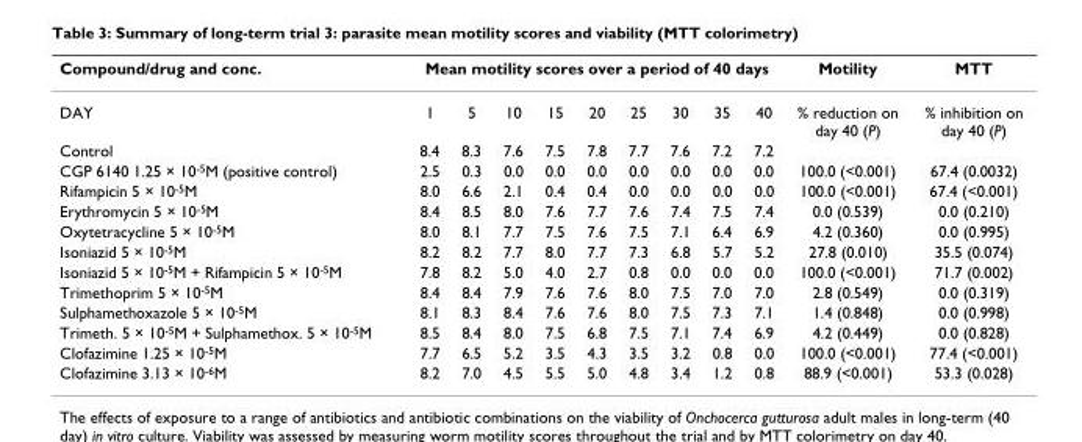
<table><thead><tr><td rowspan="2">Compound/drug and conc. DAY</td><td colspan="9">Mean motility scores over a period of 40 days</td><td rowspan="2">Motility % reduction on day 40 (P)</td><td rowspan="2">MTT % inhibition on day 40 (P)</td></tr><tr><td>1</td><td>5</td><td>10</td><td>15</td><td>20</td><td>25</td><td>30</td><td>35</td><td>40</td></tr></thead><tbody><tr><td>Control</td><td>8.4</td><td>8.3</td><td>7.6</td><td>7.5</td><td>7.8</td><td>7.7</td><td>7.6</td><td>7.2</td><td>7.2</td><td></td><td></td></tr><tr><td>CGP 6140 1.25 × 10<sup>-5</sup>M (positive control)</td><td>2.5</td><td>0.3</td><td>0.0</td><td>0.0</td><td>0.0</td><td>0.0</td><td>0.0</td><td>0.0</td><td>0.0</td><td>100.0 (&lt;0.001)</td><td>67.4 (0.0032)</td></tr><tr><td>Rifampicin 5 × 10<sup>-5</sup>M</td><td>8.0</td><td>6.6</td><td>2.1</td><td>0.4</td><td>0.4</td><td>0.0</td><td>0.0</td><td>0.0</td><td>0.0</td><td>100.0 (&lt;0.001)</td><td>67.4 (&lt;0.001)</td></tr><tr><td>Erythromycin 5 × 10<sup>-5</sup>M</td><td>8.4</td><td>8.5</td><td>8.0</td><td>7.6</td><td>7.7</td><td>7.6</td><td>7.4</td><td>7.5</td><td>7.4</td><td>0.0 (0.539)</td><td>0.0 (0.210)</td></tr><tr><td>Oxytetracycline 5 × 10<sup>-5</sup>M</td><td>8.0</td><td>8.1</td><td>7.7</td><td>7.5</td><td>7.6</td><td>7.5</td><td>7.1</td><td>6.4</td><td>6.9</td><td>4.2 (0.360)</td><td>0.0 (0.995)</td></tr><tr><td>Isoniazid 5 × 10<sup>-5</sup>M</td><td>8.2</td><td>8.2</td><td>7.7</td><td>8.0</td><td>7.7</td><td>7.3</td><td>6.8</td><td>5.7</td><td>5.2</td><td>27.8 (0.010)</td><td>35.5 (0.074)</td></tr><tr><td>Isoniazid 5 × 10<sup>-5</sup>M + Rifampicin 5 × 10<sup>-5</sup>M</td><td>7.8</td><td>8.2</td><td>5.0</td><td>4.0</td><td>2.7</td><td>0.8</td><td>0.0</td><td>0.0</td><td>0.0</td><td>100.0 (&lt;0.001)</td><td>71.7 (0.002)</td></tr><tr><td>Trimethoprim 5 × 10<sup>-5</sup>M</td><td>8.4</td><td>8.4</td><td>7.9</td><td>7.6</td><td>7.6</td><td>8.0</td><td>7.5</td><td>7.0</td><td>7.0</td><td>2.8 (0.549)</td><td>0.0 (0.319)</td></tr><tr><td>Sulphamethoxazole 5 × 10<sup>-5</sup>M</td><td>8.1</td><td>8.3</td><td>8.4</td><td>7.6</td><td>7.6</td><td>8.0</td><td>7.5</td><td>7.3</td><td>7.1</td><td>1.4 (0.848)</td><td>0.0 (0.998)</td></tr><tr><td>Trimeth. 5 × 10<sup>-5</sup>M + Sulphamethox. 5 × 10<sup>-5</sup>M</td><td>8.5</td><td>8.4</td><td>8.0</td><td>7.5</td><td>6.8</td><td>7.5</td><td>7.1</td><td>7.4</td><td>6.9</td><td>4.2 (0.449)</td><td>0.0 (0.828)</td></tr><tr><td>Clofazimine 1.25 × 10<sup>-5</sup>M</td><td>7.7</td><td>6.5</td><td>5.2</td><td>3.5</td><td>4.3</td><td>3.5</td><td>3.2</td><td>0.8</td><td>0.0</td><td>100.0 (&lt;0.001)</td><td>77.4 (&lt;0.001)</td></tr><tr><td>Clofazimine 3.13 × 10<sup>-6</sup>M</td><td>8.2</td><td>7.0</td><td>4.5</td><td>5.5</td><td>5.0</td><td>4.8</td><td>3.4</td><td>1.2</td><td>0.8</td><td>88.9 (&lt;0.001)</td><td>53.3 (0.028)</td></tr></tbody></table>